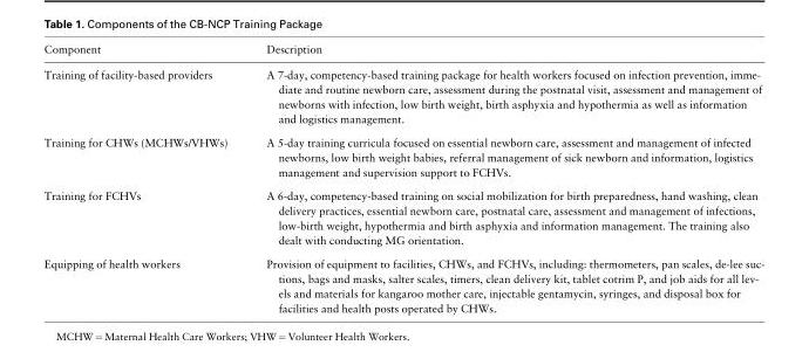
<table><thead><tr><td>Component</td><td>Description</td></tr></thead><tbody><tr><td>Training of facility-based providers</td><td>A 7-day, competency-based training package for health workers focused on infection prevention, imme- diate and routine newborn care, assessment during the postnatal visit, assessment and management of newborns with infection, low birth weight, birth asphyxia and hypothermia as well as information and logistics management.</td></tr><tr><td>Training for CHWs (MCHWs/VHWs)</td><td>A 5-day training curricula focused on essential newborn care, assessment and management of infected newborns, low birth weight babies, referral management of sick newborn and information, logistics management and supervision support to FCHVs.</td></tr><tr><td>Training for FCHVs</td><td>A 6-day, competency-based training on social mobilization for birth preparedness, hand washing, clean delivery practices, essential newborn care, postnatal care, assessment and management of infections, low-birth weight, hypothermia and birth asphyxia and information management. The training also dealt with conducting MG orientation.</td></tr><tr><td>Equipping of health workers</td><td>Provision of equipment to facilities, CHWs, and FCHVs, including: thermometers, pan scales, de-lee suc- tions, bags and masks, salter scales, timers, clean delivery kit, tablet cotrim P, and job aids for all lev- els and materials for kangaroo mother care, injectable gentamycin, syringes, and disposal box for facilities and health posts operated by CHWs.</td></tr></tbody></table>